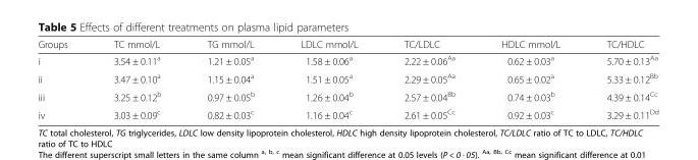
<table><thead><tr><td>Groups</td><td>TC mmol/L</td><td>TG mmol/L</td><td>LDLC mmol/L</td><td>TC/LDLC</td><td>HDLC mmol/L</td><td>TC/HDLC</td></tr></thead><tbody><tr><td>i</td><td>3.54 ± 0.11<sup>a</sup></td><td>1.21 ± 0.05<sup>a</sup></td><td>1.58 ± 0.06<sup>a</sup></td><td>2.22 ± 0.06<sup>Aa</sup></td><td>0.62 ± 0.03<sup>a</sup></td><td>5.70 ± 0.13<sup>Aa</sup></td></tr><tr><td>ii</td><td>3.47 ± 0.10<sup>a</sup></td><td>1.15 ± 0.04<sup>a</sup></td><td>1.51 ± 0.05<sup>a</sup></td><td>2.29 ± 0.05<sup>Aa</sup></td><td>0.65 ± 0.02<sup>a</sup></td><td>5.33 ± 0.12<sup>Bb</sup></td></tr><tr><td>iii</td><td>3.25 ± 0.12<sup>b</sup></td><td>0.97 ± 0.05<sup>b</sup></td><td>1.26 ± 0.04<sup>b</sup></td><td>2.57 ± 0.04<sup>Bb</sup></td><td>0.74 ± 0.03<sup>b</sup></td><td>4.39 ± 0.14<sup>Cc</sup></td></tr><tr><td>iv</td><td>3.03 ± 0.09<sup>c</sup></td><td>0.82 ± 0.03<sup>c</sup></td><td>1.16 ± 0.04<sup>c</sup></td><td>2.61 ± 0.05<sup>Cc</sup></td><td>0.92 ± 0.03<sup>c</sup></td><td>3.29 ± 0.11<sup>Dd</sup></td></tr></tbody></table>